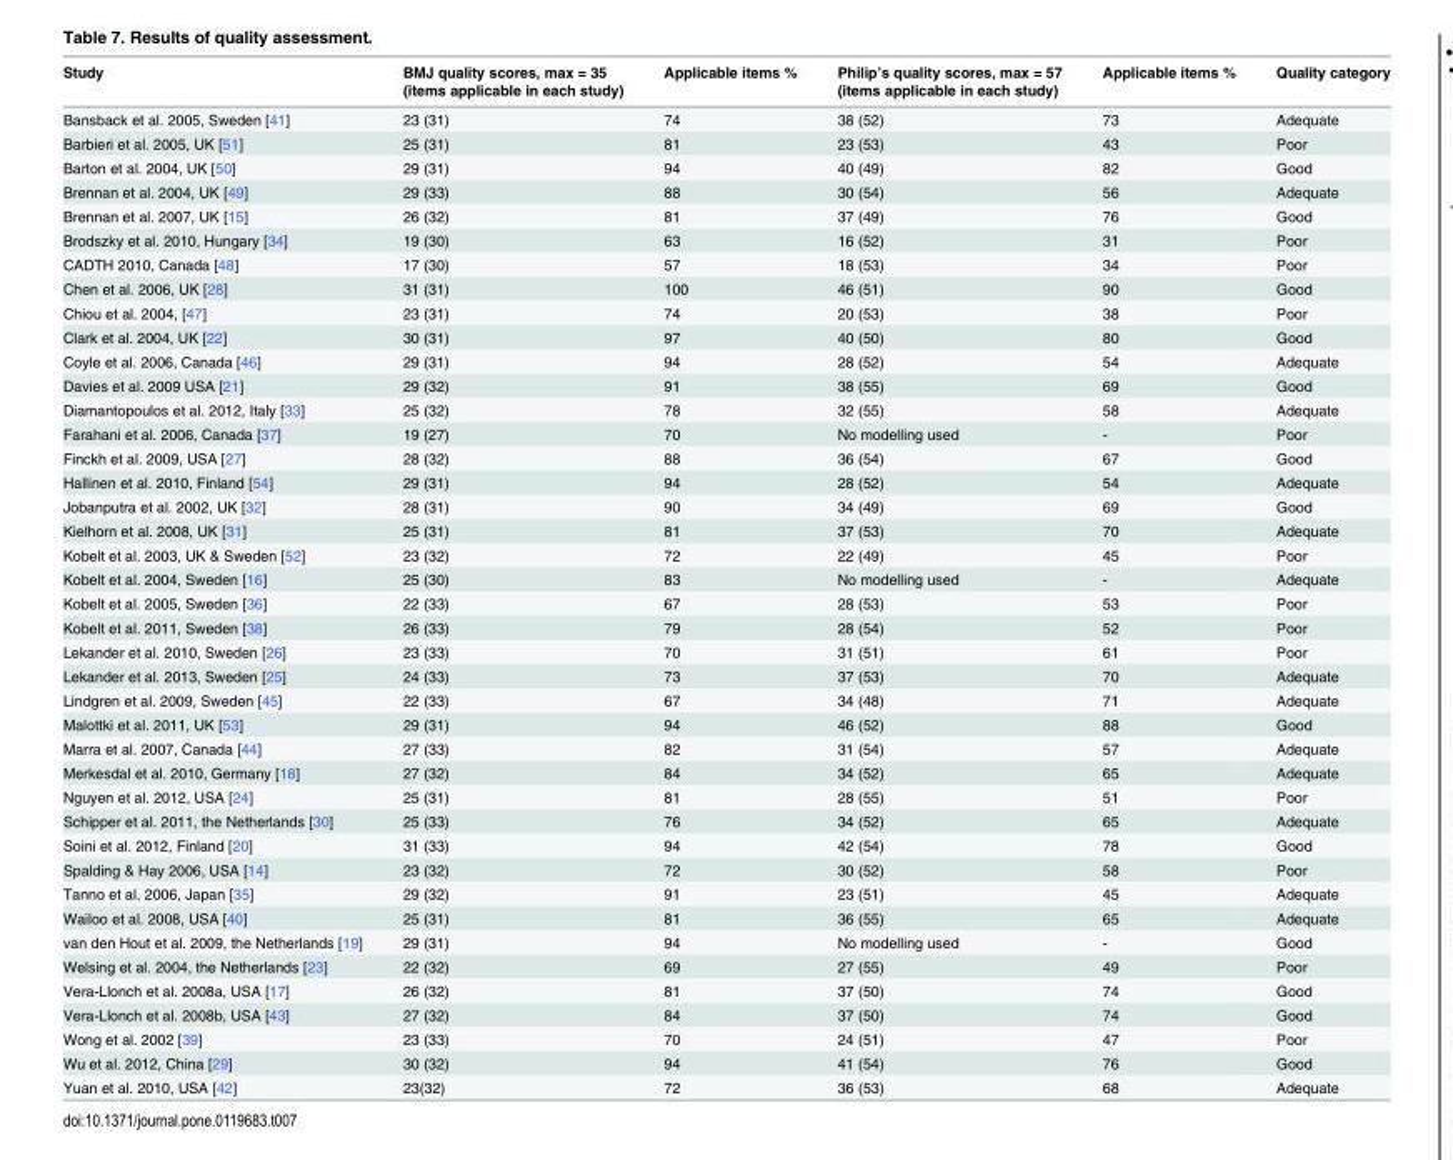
<table><thead><tr><td>Study</td><td>BMJ quality scores, max = 35 (items applicable in each study)</td><td>Applicable items %</td><td>Philip’s quality scores, max = 57 (items applicable in each study)</td><td>Applicable items %</td><td>Quality category</td></tr></thead><tbody><tr><td>Bansback et al. 2005, Sweden [41]</td><td>23 (31)</td><td>74</td><td>38 (52)</td><td>73</td><td>Adequate</td></tr><tr><td>Barbieri et al. 2005, UK [51]</td><td>25 (31)</td><td>81</td><td>23 (53)</td><td>43</td><td>Poor</td></tr><tr><td>Barton et al. 2004, UK [50]</td><td>29 (31)</td><td>94</td><td>40 (49)</td><td>82</td><td>Good</td></tr><tr><td>Brennan et al. 2004, UK [49]</td><td>29 (33)</td><td>88</td><td>30 (54)</td><td>56</td><td>Adequate</td></tr><tr><td>Brennan et al. 2007, UK [15]</td><td>26 (32)</td><td>81</td><td>37 (49)</td><td>76</td><td>Good</td></tr><tr><td>Brodszky et al. 2010, Hungary [34]</td><td>19 (30)</td><td>63</td><td>16 (52)</td><td>31</td><td>Poor</td></tr><tr><td>CADTH 2010, Canada [48]</td><td>17 (30)</td><td>57</td><td>18 (53)</td><td>34</td><td>Poor</td></tr><tr><td>Chen et al. 2006, UK [28]</td><td>31 (31)</td><td>100</td><td>46 (51)</td><td>90</td><td>Good</td></tr><tr><td>Chiou et al. 2004, [47]</td><td>23 (31)</td><td>74</td><td>20 (53)</td><td>38</td><td>Poor</td></tr><tr><td>Clark et al. 2004, UK [22]</td><td>30 (31)</td><td>97</td><td>40 (50)</td><td>80</td><td>Good</td></tr><tr><td>Coyle et al. 2006, Canada [46]</td><td>29 (31)</td><td>94</td><td>28 (52)</td><td>54</td><td>Adequate</td></tr><tr><td>Davies et al. 2009 USA [21]</td><td>29 (32)</td><td>91</td><td>38 (55)</td><td>69</td><td>Good</td></tr><tr><td>Diamantopoulos et al. 2012, Italy [33]</td><td>25 (32)</td><td>78</td><td>32 (55)</td><td>58</td><td>Adequate</td></tr><tr><td>Farahani et al. 2006, Canada [37]</td><td>19 (27)</td><td>70</td><td>No modelling used</td><td>-</td><td>Poor</td></tr><tr><td>Finckh et al. 2009, USA [27]</td><td>28 (32)</td><td>88</td><td>36 (54)</td><td>67</td><td>Good</td></tr><tr><td>Hallinen et al. 2010, Finland [54]</td><td>29 (31)</td><td>94</td><td>28 (52)</td><td>54</td><td>Adequate</td></tr><tr><td>Jobanputra et al. 2002, UK [32]</td><td>28 (31)</td><td>90</td><td>34 (49)</td><td>69</td><td>Good</td></tr><tr><td>Kielhorn et al. 2008, UK [31]</td><td>25 (31)</td><td>81</td><td>37 (53)</td><td>70</td><td>Adequate</td></tr><tr><td>Kobelt et al. 2003, UK &amp; Sweden [52]</td><td>23 (32)</td><td>72</td><td>22 (49)</td><td>45</td><td>Poor</td></tr><tr><td>Kobelt et al. 2004, Sweden [16]</td><td>25 (30)</td><td>83</td><td>No modelling used</td><td>-</td><td>Adequate</td></tr><tr><td>Kobelt et al. 2005, Sweden [36]</td><td>22 (33)</td><td>67</td><td>28 (53)</td><td>53</td><td>Poor</td></tr><tr><td>Kobelt et al. 2011, Sweden [38]</td><td>26 (33)</td><td>79</td><td>28 (54)</td><td>52</td><td>Poor</td></tr><tr><td>Lekander et al. 2010, Sweden [26]</td><td>23 (33)</td><td>70</td><td>31 (51)</td><td>61</td><td>Poor</td></tr><tr><td>Lekander et al. 2013, Sweden [25]</td><td>24 (33)</td><td>73</td><td>37 (53)</td><td>70</td><td>Adequate</td></tr><tr><td>Lindgren et al. 2009, Sweden [45]</td><td>22 (33)</td><td>67</td><td>34 (48)</td><td>71</td><td>Adequate</td></tr><tr><td>Malottki et al. 2011, UK [53]</td><td>29 (31)</td><td>94</td><td>46 (52)</td><td>88</td><td>Good</td></tr><tr><td>Marra et al. 2007, Canada [44]</td><td>27 (33)</td><td>82</td><td>31 (54)</td><td>57</td><td>Adequate</td></tr><tr><td>Merkesdal et al. 2010, Germany [18]</td><td>27 (32)</td><td>84</td><td>34 (52)</td><td>65</td><td>Adequate</td></tr><tr><td>Nguyen et al. 2012, USA [24]</td><td>25 (31)</td><td>81</td><td>28 (55)</td><td>51</td><td>Poor</td></tr><tr><td>Schipper et al. 2011, the Netherlands [30]</td><td>25 (33)</td><td>76</td><td>34 (52)</td><td>65</td><td>Adequate</td></tr><tr><td>Soini et al. 2012, Finland [20]</td><td>31 (33)</td><td>94</td><td>42 (54)</td><td>78</td><td>Good</td></tr><tr><td>Spalding &amp; Hay 2006, USA [14]</td><td>23 (32)</td><td>72</td><td>30 (52)</td><td>58</td><td>Poor</td></tr><tr><td>Tanno et al. 2006, Japan [35]</td><td>29 (32)</td><td>91</td><td>23 (51)</td><td>45</td><td>Adequate</td></tr><tr><td>Wailoo et al. 2008, USA [40]</td><td>25 (31)</td><td>81</td><td>36 (55)</td><td>65</td><td>Adequate</td></tr><tr><td>van den Hout et al. 2009, the Netherlands [19]</td><td>29 (31)</td><td>94</td><td>No modelling used</td><td>-</td><td>Good</td></tr><tr><td>Welsing et al. 2004, the Netherlands [23]</td><td>22 (32)</td><td>69</td><td>27 (55)</td><td>49</td><td>Poor</td></tr><tr><td>Vera-Llonch et al. 2008a, USA [17]</td><td>26 (32)</td><td>81</td><td>37 (50)</td><td>74</td><td>Good</td></tr><tr><td>Vera-Llonch et al. 2008b, USA [43]</td><td>27 (32)</td><td>84</td><td>37 (50)</td><td>74</td><td>Good</td></tr><tr><td>Wong et al. 2002 [39]</td><td>23 (33)</td><td>70</td><td>24 (51)</td><td>47</td><td>Poor</td></tr><tr><td>Wu et al. 2012, China [29]</td><td>30 (32)</td><td>94</td><td>41 (54)</td><td>76</td><td>Good</td></tr><tr><td>Yuan et al. 2010, USA [42]</td><td>23(32)</td><td>72</td><td>36 (53)</td><td>68</td><td>Adequate</td></tr></tbody></table>